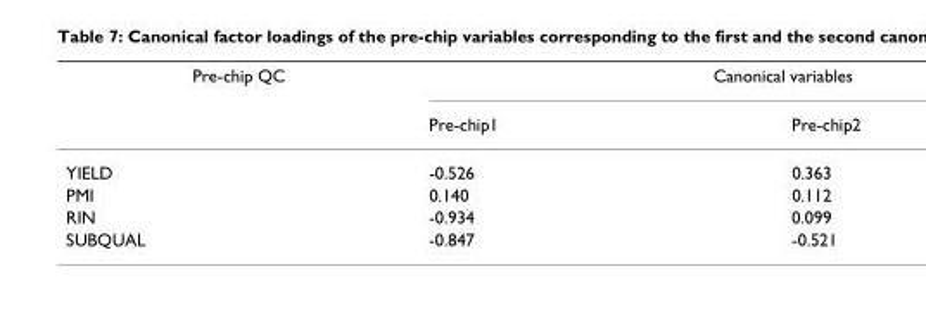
<table><thead><tr><td rowspan="2">Pre-chip QC</td><td colspan="2">Canonical variables</td></tr><tr><td>Pre-chip1</td><td>Pre-chip2</td></tr></thead><tbody><tr><td>YIELD</td><td>-0.526</td><td>0.363</td></tr><tr><td>PMI</td><td>0.140</td><td>0.112</td></tr><tr><td>RIN</td><td>-0.934</td><td>0.099</td></tr><tr><td>SUBQUAL</td><td>-0.847</td><td>-0.521</td></tr></tbody></table>